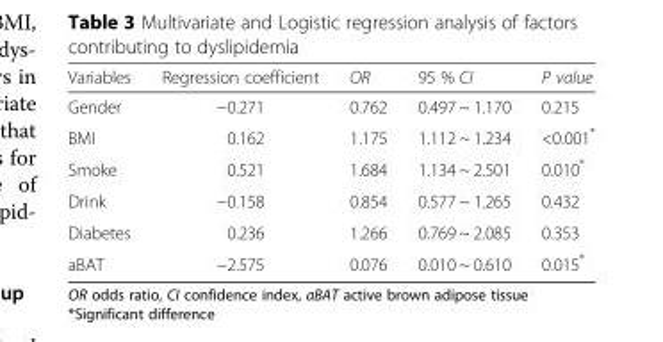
<table><thead><tr><td>Variables</td><td>Regression coefficient</td><td>OR</td><td>95 % CI</td><td>P value</td></tr></thead><tbody><tr><td>Gender</td><td>−0.271</td><td>0.762</td><td>0.497 ~ 1.170</td><td>0.215</td></tr><tr><td>BMI</td><td>0.162</td><td>1.175</td><td>1.112 ~ 1.234</td><td>&lt;0.001*</td></tr><tr><td>Smoke</td><td>0.521</td><td>1.684</td><td>1.134 ~ 2.501</td><td>0.010*</td></tr><tr><td>Drink</td><td>−0.158</td><td>0.854</td><td>0.577 ~ 1.265</td><td>0.432</td></tr><tr><td>Diabetes</td><td>0.236</td><td>1.266</td><td>0.769 ~ 2.085</td><td>0.353</td></tr><tr><td>aBAT</td><td>−2.575</td><td>0.076</td><td>0.010 ~ 0.610</td><td>0.015*</td></tr></tbody></table>